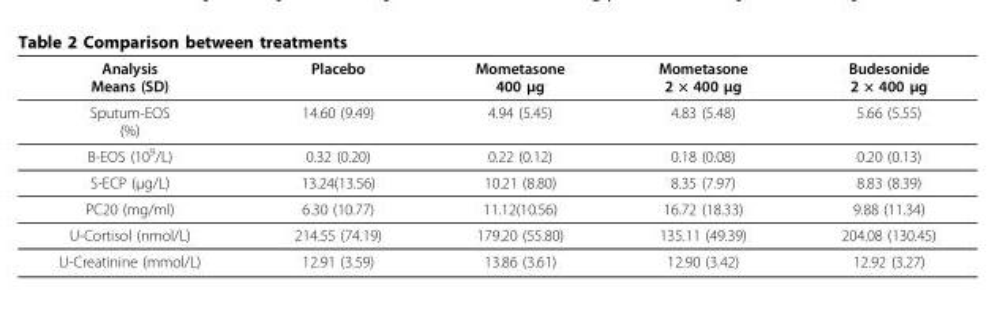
<table><thead><tr><td>Analysis Means (SD)</td><td>Placebo</td><td>Mometasone 400 μg</td><td>Mometasone 2 × 400 μg</td><td>Budesonide 2 × 400 μg</td></tr></thead><tbody><tr><td>Sputum-EOS (%)</td><td>14.60 (9.49)</td><td>4.94 (5.45)</td><td>4.83 (5.48)</td><td>5.66 (5.55)</td></tr><tr><td>B-EOS (10<sup>9</sup>/L)</td><td>0.32 (0.20)</td><td>0.22 (0.12)</td><td>0.18 (0.08)</td><td>0.20 (0.13)</td></tr><tr><td>S-ECP (μg/L)</td><td>13.24(13.56)</td><td>10.21 (8.80)</td><td>8.35 (7.97)</td><td>8.83 (8.39)</td></tr><tr><td>PC20 (mg/ml)</td><td>6.30 (10.77)</td><td>11.12(10.56)</td><td>16.72 (18.33)</td><td>9.88 (11.34)</td></tr><tr><td>U-Cortisol (nmol/L)</td><td>214.55 (74.19)</td><td>179.20 (55.80)</td><td>135.11 (49.39)</td><td>204.08 (130.45)</td></tr><tr><td>U-Creatinine (mmol/L)</td><td>12.91 (3.59)</td><td>13.86 (3.61)</td><td>12.90 (3.42)</td><td>12.92 (3.27)</td></tr></tbody></table>